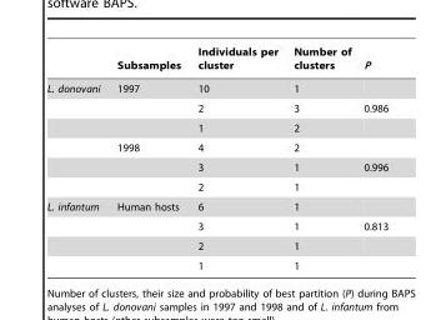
<table><thead><tr><td></td><td>Subsamples</td><td>Individuals per cluster</td><td>Number of clusters</td><td>P</td></tr></thead><tbody><tr><td rowspan="6">L. donovani</td><td>1997</td><td>10</td><td>1</td><td></td></tr><tr><td></td><td>2</td><td>3</td><td>0.986</td></tr><tr><td></td><td>1</td><td>2</td><td></td></tr><tr><td>1998</td><td>4</td><td>2</td><td></td></tr><tr><td></td><td>3</td><td>1</td><td>0.996</td></tr><tr><td></td><td>2</td><td>1</td><td></td></tr><tr><td rowspan="4">L. infantum</td><td>Human hosts</td><td>6</td><td>1</td><td></td></tr><tr><td></td><td>3</td><td>1</td><td>0.813</td></tr><tr><td></td><td>2</td><td>1</td><td></td></tr><tr><td></td><td>1</td><td>1</td><td></td></tr></tbody></table>